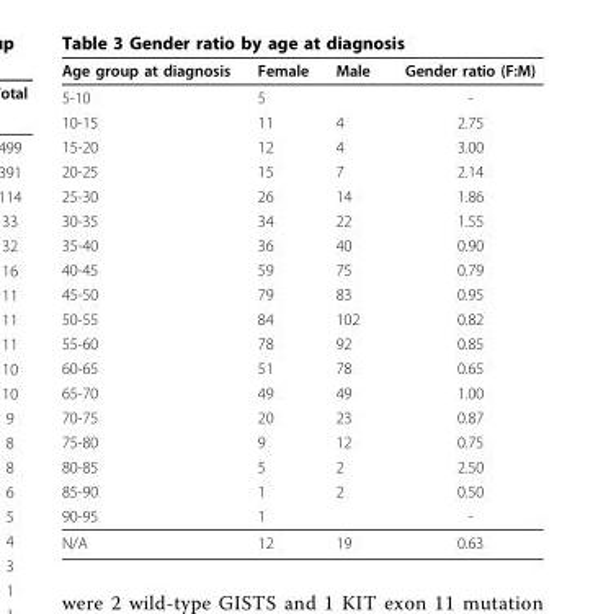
<table><thead><tr><td>Age group at diagnosis</td><td>Female</td><td>Male</td><td>Gender ratio (F:M)</td></tr></thead><tbody><tr><td>5-10</td><td>5</td><td></td><td>-</td></tr><tr><td>10-15</td><td>11</td><td>4</td><td>2.75</td></tr><tr><td>15-20</td><td>12</td><td>4</td><td>3.00</td></tr><tr><td>20-25</td><td>15</td><td>7</td><td>2.14</td></tr><tr><td>25-30</td><td>26</td><td>14</td><td>1.86</td></tr><tr><td>30-35</td><td>34</td><td>22</td><td>1.55</td></tr><tr><td>35-40</td><td>36</td><td>40</td><td>0.90</td></tr><tr><td>40-45</td><td>59</td><td>75</td><td>0.79</td></tr><tr><td>45-50</td><td>79</td><td>83</td><td>0.95</td></tr><tr><td>50-55</td><td>84</td><td>102</td><td>0.82</td></tr><tr><td>55-60</td><td>78</td><td>92</td><td>0.85</td></tr><tr><td>60-65</td><td>51</td><td>78</td><td>0.65</td></tr><tr><td>65-70</td><td>49</td><td>49</td><td>1.00</td></tr><tr><td>70-75</td><td>20</td><td>23</td><td>0.87</td></tr><tr><td>75-80</td><td>9</td><td>12</td><td>0.75</td></tr><tr><td>80-85</td><td>5</td><td>2</td><td>2.50</td></tr><tr><td>85-90</td><td>1</td><td>2</td><td>0.50</td></tr><tr><td>90-95</td><td>1</td><td></td><td>-</td></tr><tr><td>N/A</td><td>12</td><td>19</td><td>0.63</td></tr></tbody></table>